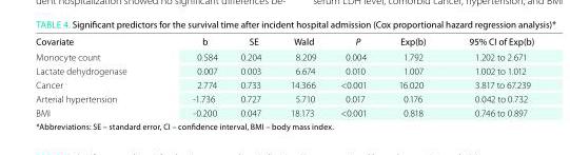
<table><thead><tr><td>Covariate</td><td>b</td><td>SE</td><td>Wald</td><td>P</td><td>Exp(b)</td><td>95% CI of Exp(b)</td></tr></thead><tbody><tr><td>Monocyte count</td><td>0.584</td><td>0.204</td><td>8.209</td><td>0.004</td><td>1.792</td><td>1.202 to 2.671</td></tr><tr><td>Lactate dehydrogenase</td><td>0.007</td><td>0.003</td><td>6.674</td><td>0.010</td><td>1.007</td><td>1.002 to 1.012</td></tr><tr><td>Cancer</td><td>2.774</td><td>0.733</td><td>14.366</td><td>&lt;0.001</td><td>16.020</td><td>3.817 to 67.239</td></tr><tr><td>Arterial hypertension</td><td>-1.736</td><td>0.727</td><td>5.710</td><td>0.017</td><td>0.176</td><td>0.042 to 0.732</td></tr><tr><td>BMI</td><td>-0.200</td><td>0.047</td><td>18.173</td><td>&lt;0.001</td><td>0.818</td><td>0.746 to 0.897</td></tr></tbody></table>